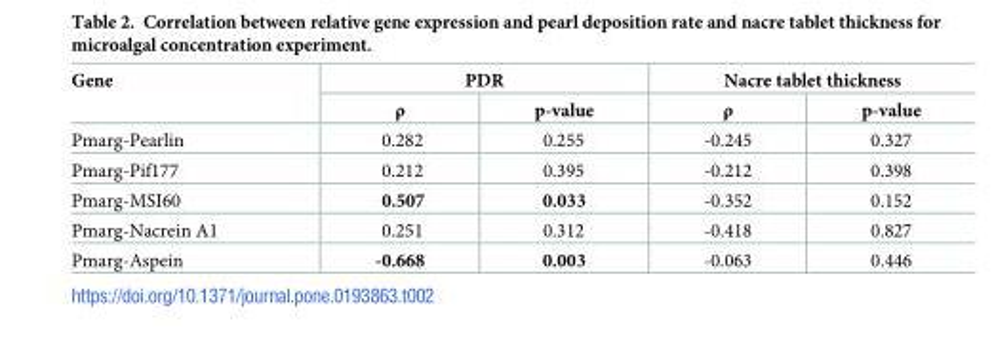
<table><thead><tr><td rowspan="2">Gene</td><td colspan="2">PDR</td><td colspan="2">Nacre tablet thickness</td></tr><tr><td>ρ</td><td>p-value</td><td>ρ</td><td>p-value</td></tr></thead><tbody><tr><td>Pmarg-Pearlin</td><td>0.282</td><td>0.255</td><td>-0.245</td><td>0.327</td></tr><tr><td>Pmarg-Pif177</td><td>0.212</td><td>0.395</td><td>-0.212</td><td>0.398</td></tr><tr><td>Pmarg-MSI60</td><td>0.507</td><td>0.033</td><td>-0.352</td><td>0.152</td></tr><tr><td>Pmarg-Nacrein A1</td><td>0.251</td><td>0.312</td><td>-0.418</td><td>0.827</td></tr><tr><td>Pmarg-Aspein</td><td>-0.668</td><td>0.003</td><td>-0.063</td><td>0.446</td></tr></tbody></table>